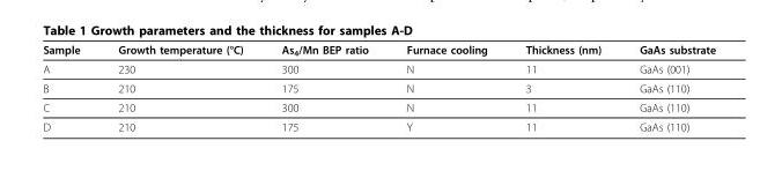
<table><thead><tr><td>Sample</td><td>Growth temperature (°C)</td><td>As<sub>4</sub>/Mn BEP ratio</td><td>Furnace cooling</td><td>Thickness (nm)</td><td>GaAs substrate</td></tr></thead><tbody><tr><td>A</td><td>230</td><td>300</td><td>N</td><td>11</td><td>GaAs (001)</td></tr><tr><td>B</td><td>210</td><td>175</td><td>N</td><td>3</td><td>GaAs (110)</td></tr><tr><td>C</td><td>210</td><td>300</td><td>N</td><td>11</td><td>GaAs (110)</td></tr><tr><td>D</td><td>210</td><td>175</td><td>Y</td><td>11</td><td>GaAs (110)</td></tr></tbody></table>